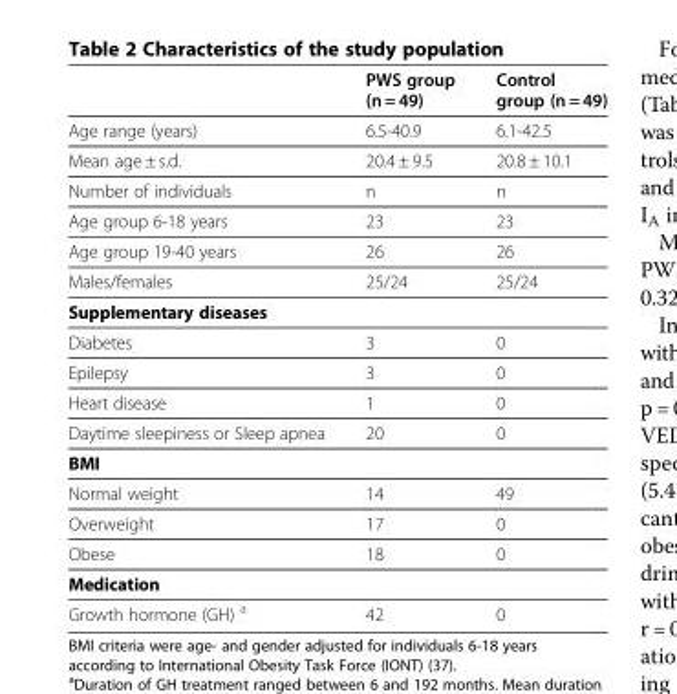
<table><thead><tr><td></td><td>PWS group (n = 49)</td><td>Control group (n = 49)</td></tr></thead><tbody><tr><td>Age range (years)</td><td>6.5-40.9</td><td>6.1-42.5</td></tr><tr><td>Mean age ± s.d.</td><td>20.4 ± 9.5</td><td>20.8 ± 10.1</td></tr><tr><td>Number of individuals</td><td>n</td><td>n</td></tr><tr><td>Age group 6-18 years</td><td>23</td><td>23</td></tr><tr><td>Age group 19-40 years</td><td>26</td><td>26</td></tr><tr><td>Males/females</td><td>25/24</td><td>25/24</td></tr><tr><td colspan="3">Supplementary diseases</td></tr><tr><td>Diabetes</td><td>3</td><td>0</td></tr><tr><td>Epilepsy</td><td>3</td><td>0</td></tr><tr><td>Heart disease</td><td>1</td><td>0</td></tr><tr><td>Daytime sleepiness or Sleep apnea</td><td>20</td><td>0</td></tr><tr><td colspan="3">BMI</td></tr><tr><td>Normal weight</td><td>14</td><td>49</td></tr><tr><td>Overweight</td><td>17</td><td>0</td></tr><tr><td>Obese</td><td>18</td><td>0</td></tr><tr><td colspan="3">Medication</td></tr><tr><td>Growth hormone (GH) <sup>a</sup></td><td>42</td><td>0</td></tr></tbody></table>